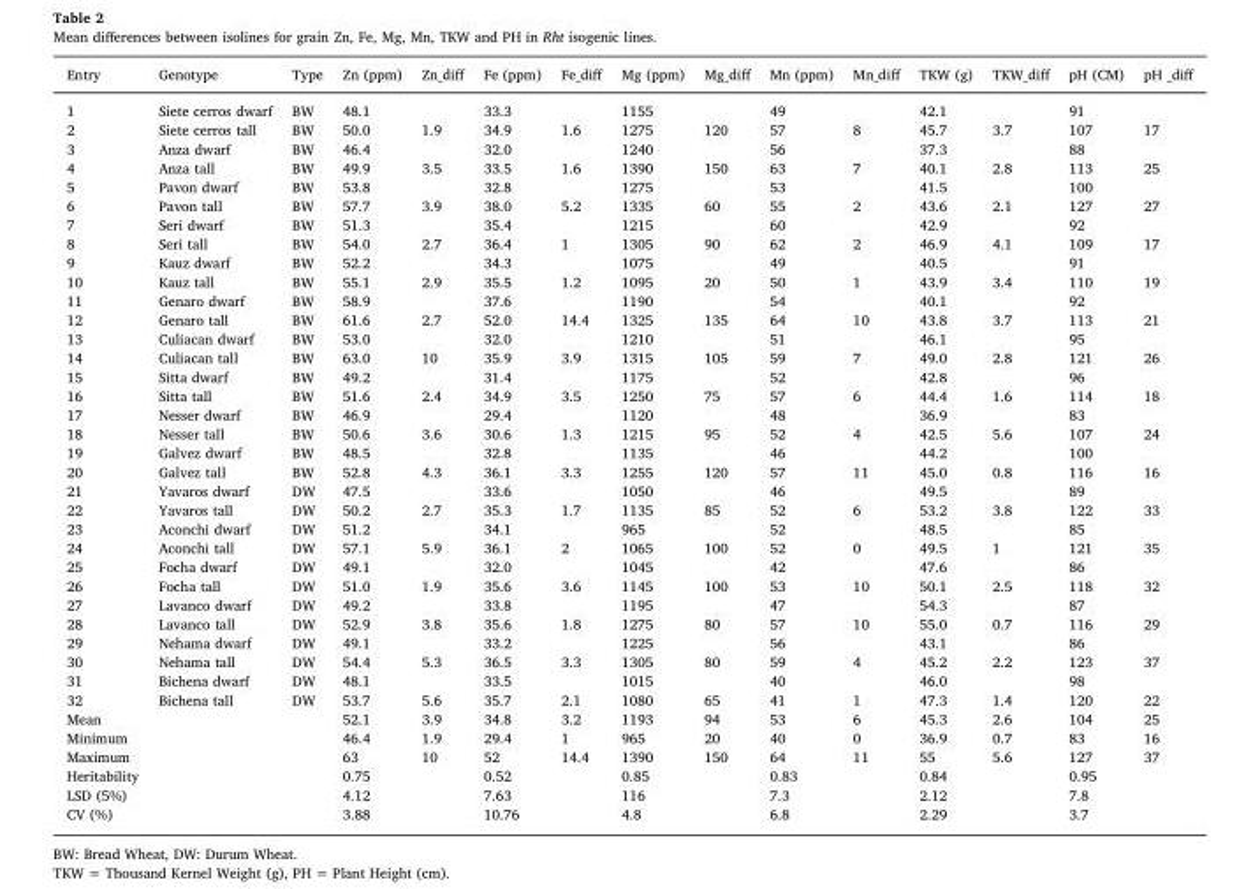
<table><thead><tr><td>Entry</td><td>Genotype</td><td>Type</td><td>Zn (ppm)</td><td>Zn_diff</td><td>Fe (ppm)</td><td>Fe_diff</td><td>Mg (ppm)</td><td>Mg_diff</td><td>Mn (ppm)</td><td>Mn_diff</td><td>TKW (g)</td><td>TKW_diff</td><td>pH (CM)</td><td>pH _diff</td></tr></thead><tbody><tr><td>1</td><td>Siete cerros dwarf</td><td>BW</td><td>48.1</td><td></td><td>33.3</td><td></td><td>1155</td><td></td><td>49</td><td></td><td>42.1</td><td></td><td>91</td><td></td></tr><tr><td>2</td><td>Siete cerros tall</td><td>BW</td><td>50.0</td><td>1.9</td><td>34.9</td><td>1.6</td><td>1275</td><td>120</td><td>57</td><td>8</td><td>45.7</td><td>3.7</td><td>107</td><td>17</td></tr><tr><td>3</td><td>Anza dwarf</td><td>BW</td><td>46.4</td><td></td><td>32.0</td><td></td><td>1240</td><td></td><td>56</td><td></td><td>37.3</td><td></td><td>88</td><td></td></tr><tr><td>4</td><td>Anza tall</td><td>BW</td><td>49.9</td><td>3.5</td><td>33.5</td><td>1.6</td><td>1390</td><td>150</td><td>63</td><td>7</td><td>40.1</td><td>2.8</td><td>113</td><td>25</td></tr><tr><td>5</td><td>Pavon dwarf</td><td>BW</td><td>53.8</td><td></td><td>32.8</td><td></td><td>1275</td><td></td><td>53</td><td></td><td>41.5</td><td></td><td>100</td><td></td></tr><tr><td>6</td><td>Pavon tall</td><td>BW</td><td>57.7</td><td>3.9</td><td>38.0</td><td>5.2</td><td>1335</td><td>60</td><td>55</td><td>2</td><td>43.6</td><td>2.1</td><td>127</td><td>27</td></tr><tr><td>7</td><td>Seri dwarf</td><td>BW</td><td>51.3</td><td></td><td>35.4</td><td></td><td>1215</td><td></td><td>60</td><td></td><td>42.9</td><td></td><td>92</td><td></td></tr><tr><td>8</td><td>Seri tall</td><td>BW</td><td>54.0</td><td>2.7</td><td>36.4</td><td>1</td><td>1305</td><td>90</td><td>62</td><td>2</td><td>46.9</td><td>4.1</td><td>109</td><td>17</td></tr><tr><td>9</td><td>Kauz dwarf</td><td>BW</td><td>52.2</td><td></td><td>34.3</td><td></td><td>1075</td><td></td><td>49</td><td></td><td>40.5</td><td></td><td>91</td><td></td></tr><tr><td>10</td><td>Kauz tall</td><td>BW</td><td>55.1</td><td>2.9</td><td>35.5</td><td>1.2</td><td>1095</td><td>20</td><td>50</td><td>1</td><td>43.9</td><td>3.4</td><td>110</td><td>19</td></tr><tr><td>11</td><td>Genaro dwarf</td><td>BW</td><td>58.9</td><td></td><td>37.6</td><td></td><td>1190</td><td></td><td>54</td><td></td><td>40.1</td><td></td><td>92</td><td></td></tr><tr><td>12</td><td>Genaro tall</td><td>BW</td><td>61.6</td><td>2.7</td><td>52.0</td><td>14.4</td><td>1325</td><td>135</td><td>64</td><td>10</td><td>43.8</td><td>3.7</td><td>113</td><td>21</td></tr><tr><td>13</td><td>Culiacan dwarf</td><td>BW</td><td>53.0</td><td></td><td>32.0</td><td></td><td>1210</td><td></td><td>51</td><td></td><td>46.1</td><td></td><td>95</td><td></td></tr><tr><td>14</td><td>Culiacan tall</td><td>BW</td><td>63.0</td><td>10</td><td>35.9</td><td>3.9</td><td>1315</td><td>105</td><td>59</td><td>7</td><td>49.0</td><td>2.8</td><td>121</td><td>26</td></tr><tr><td>15</td><td>Sitta dwarf</td><td>BW</td><td>49.2</td><td></td><td>31.4</td><td></td><td>1175</td><td></td><td>52</td><td></td><td>42.8</td><td></td><td>96</td><td></td></tr><tr><td>16</td><td>Sitta tall</td><td>BW</td><td>51.6</td><td>2.4</td><td>34.9</td><td>3.5</td><td>1250</td><td>75</td><td>57</td><td>6</td><td>44.4</td><td>1.6</td><td>114</td><td>18</td></tr><tr><td>17</td><td>Nesser dwarf</td><td>BW</td><td>46.9</td><td></td><td>29.4</td><td></td><td>1120</td><td></td><td>48</td><td></td><td>36.9</td><td></td><td>83</td><td></td></tr><tr><td>18</td><td>Nesser tall</td><td>BW</td><td>50.6</td><td>3.6</td><td>30.6</td><td>1.3</td><td>1215</td><td>95</td><td>52</td><td>4</td><td>42.5</td><td>5.6</td><td>107</td><td>24</td></tr><tr><td>19</td><td>Galvez dwarf</td><td>BW</td><td>48.5</td><td></td><td>32.8</td><td></td><td>1135</td><td></td><td>46</td><td></td><td>44.2</td><td></td><td>100</td><td></td></tr><tr><td>20</td><td>Galvez tall</td><td>BW</td><td>52.8</td><td>4.3</td><td>36.1</td><td>3.3</td><td>1255</td><td>120</td><td>57</td><td>11</td><td>45.0</td><td>0.8</td><td>116</td><td>16</td></tr><tr><td>21</td><td>Yavaros dwarf</td><td>DW</td><td>47.5</td><td></td><td>33.6</td><td></td><td>1050</td><td></td><td>46</td><td></td><td>49.5</td><td></td><td>89</td><td></td></tr><tr><td>22</td><td>Yavaros tall</td><td>DW</td><td>50.2</td><td>2.7</td><td>35.3</td><td>1.7</td><td>1135</td><td>85</td><td>52</td><td>6</td><td>53.2</td><td>3.8</td><td>122</td><td>33</td></tr><tr><td>23</td><td>Aconchi dwarf</td><td>DW</td><td>51.2</td><td></td><td>34.1</td><td></td><td>965</td><td></td><td>52</td><td></td><td>48.5</td><td></td><td>85</td><td></td></tr><tr><td>24</td><td>Aconchi tall</td><td>DW</td><td>57.1</td><td>5.9</td><td>36.1</td><td>2</td><td>1065</td><td>100</td><td>52</td><td>0</td><td>49.5</td><td>1</td><td>121</td><td>35</td></tr><tr><td>25</td><td>Focha dwarf</td><td>DW</td><td>49.1</td><td></td><td>32.0</td><td></td><td>1045</td><td></td><td>42</td><td></td><td>47.6</td><td></td><td>86</td><td></td></tr><tr><td>26</td><td>Focha tall</td><td>DW</td><td>51.0</td><td>1.9</td><td>35.6</td><td>3.6</td><td>1145</td><td>100</td><td>53</td><td>10</td><td>50.1</td><td>2.5</td><td>118</td><td>32</td></tr><tr><td>27</td><td>Lavanco dwarf</td><td>DW</td><td>49.2</td><td></td><td>33.8</td><td></td><td>1195</td><td></td><td>47</td><td></td><td>54.3</td><td></td><td>87</td><td></td></tr><tr><td>28</td><td>Lavanco tall</td><td>DW</td><td>52.9</td><td>3.8</td><td>35.6</td><td>1.8</td><td>1275</td><td>80</td><td>57</td><td>10</td><td>55.0</td><td>0.7</td><td>116</td><td>29</td></tr><tr><td>29</td><td>Nehama dwarf</td><td>DW</td><td>49.1</td><td></td><td>33.2</td><td></td><td>1225</td><td></td><td>56</td><td></td><td>43.1</td><td></td><td>86</td><td></td></tr><tr><td>30</td><td>Nehama tall</td><td>DW</td><td>54.4</td><td>5.3</td><td>36.5</td><td>3.3</td><td>1305</td><td>80</td><td>59</td><td>4</td><td>45.2</td><td>2.2</td><td>123</td><td>37</td></tr><tr><td>31</td><td>Bichena dwarf</td><td>DW</td><td>48.1</td><td></td><td>33.5</td><td></td><td>1015</td><td></td><td>40</td><td></td><td>46.0</td><td></td><td>98</td><td></td></tr><tr><td>32</td><td>Bichena tall</td><td>DW</td><td>53.7</td><td>5.6</td><td>35.7</td><td>2.1</td><td>1080</td><td>65</td><td>41</td><td>1</td><td>47.3</td><td>1.4</td><td>120</td><td>22</td></tr><tr><td>Mean</td><td></td><td></td><td>52.1</td><td>3.9</td><td>34.8</td><td>3.2</td><td>1193</td><td>94</td><td>53</td><td>6</td><td>45.3</td><td>2.6</td><td>104</td><td>25</td></tr><tr><td>Minimum</td><td></td><td></td><td>46.4</td><td>1.9</td><td>29.4</td><td>1</td><td>965</td><td>20</td><td>40</td><td>0</td><td>36.9</td><td>0.7</td><td>83</td><td>16</td></tr><tr><td>Maximum</td><td></td><td></td><td>63</td><td>10</td><td>52</td><td>14.4</td><td>1390</td><td>150</td><td>64</td><td>11</td><td>55</td><td>5.6</td><td>127</td><td>37</td></tr><tr><td>Heritability</td><td></td><td></td><td>0.75</td><td></td><td>0.52</td><td></td><td>0.85</td><td></td><td>0.83</td><td></td><td>0.84</td><td></td><td>0.95</td><td></td></tr><tr><td>LSD (5%)</td><td></td><td></td><td>4.12</td><td></td><td>7.63</td><td></td><td>116</td><td></td><td>7.3</td><td></td><td>2.12</td><td></td><td>7.8</td><td></td></tr><tr><td>CV (%)</td><td></td><td></td><td>3.88</td><td></td><td>10.76</td><td></td><td>4.8</td><td></td><td>6.8</td><td></td><td>2.29</td><td></td><td>3.7</td><td></td></tr></tbody></table>